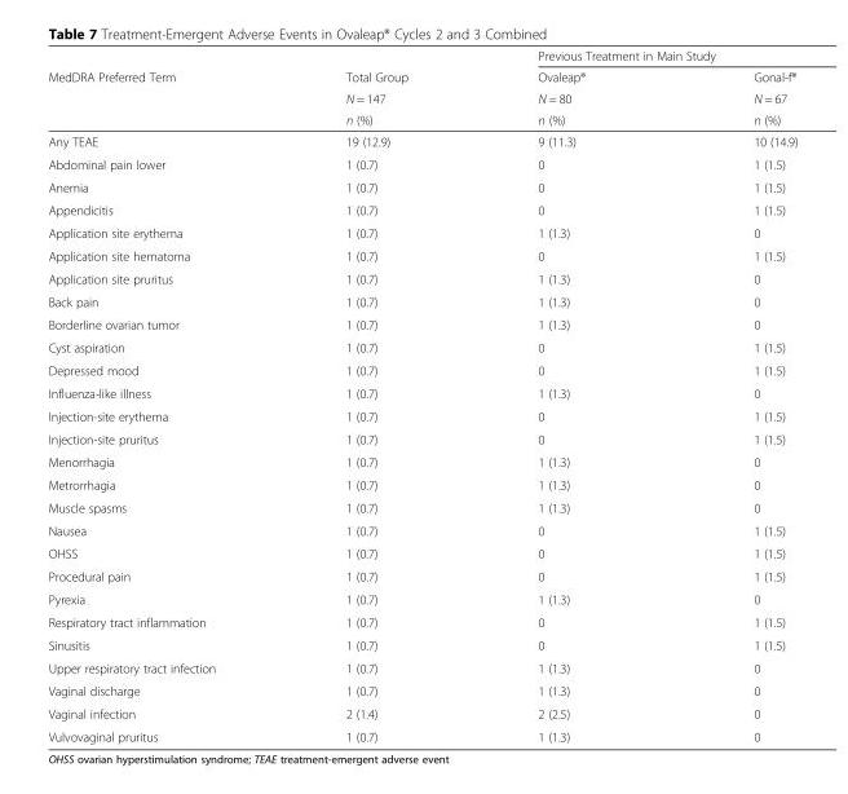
<table><thead><tr><td rowspan="4">MedDRA Preferred Term</td><td rowspan="4">Total Group N = 147 n (%)</td><td colspan="2">Previous Treatment in Main Study</td></tr><tr><td rowspan="3">Ovaleap® N = 80 n (%)</td><td rowspan="3">Gonal-f® N = 67 n (%)</td></tr><tr></tr><tr></tr></thead><tbody><tr><td>Any TEAE</td><td>19 (12.9)</td><td>9 (11.3)</td><td>10 (14.9)</td></tr><tr><td>Abdominal pain lower</td><td>1 (0.7)</td><td>0</td><td>1 (1.5)</td></tr><tr><td>Anemia</td><td>1 (0.7)</td><td>0</td><td>1 (1.5)</td></tr><tr><td>Appendicitis</td><td>1 (0.7)</td><td>0</td><td>1 (1.5)</td></tr><tr><td>Application site erythema</td><td>1 (0.7)</td><td>1 (1.3)</td><td>0</td></tr><tr><td>Application site hematoma</td><td>1 (0.7)</td><td>0</td><td>1 (1.5)</td></tr><tr><td>Application site pruritus</td><td>1 (0.7)</td><td>1 (1.3)</td><td>0</td></tr><tr><td>Back pain</td><td>1 (0.7)</td><td>1 (1.3)</td><td>0</td></tr><tr><td>Borderline ovarian tumor</td><td>1 (0.7)</td><td>1 (1.3)</td><td>0</td></tr><tr><td>Cyst aspiration</td><td>1 (0.7)</td><td>0</td><td>1 (1.5)</td></tr><tr><td>Depressed mood</td><td>1 (0.7)</td><td>0</td><td>1 (1.5)</td></tr><tr><td>Influenza-like illness</td><td>1 (0.7)</td><td>1 (1.3)</td><td>0</td></tr><tr><td>Injection-site erythema</td><td>1 (0.7)</td><td>0</td><td>1 (1.5)</td></tr><tr><td>Injection-site pruritus</td><td>1 (0.7)</td><td>0</td><td>1 (1.5)</td></tr><tr><td>Menorrhagia</td><td>1 (0.7)</td><td>1 (1.3)</td><td>0</td></tr><tr><td>Metrorrhagia</td><td>1 (0.7)</td><td>1 (1.3)</td><td>0</td></tr><tr><td>Muscle spasms</td><td>1 (0.7)</td><td>1 (1.3)</td><td>0</td></tr><tr><td>Nausea</td><td>1 (0.7)</td><td>0</td><td>1 (1.5)</td></tr><tr><td>OHSS</td><td>1 (0.7)</td><td>0</td><td>1 (1.5)</td></tr><tr><td>Procedural pain</td><td>1 (0.7)</td><td>0</td><td>1 (1.5)</td></tr><tr><td>Pyrexia</td><td>1 (0.7)</td><td>1 (1.3)</td><td>0</td></tr><tr><td>Respiratory tract inflammation</td><td>1 (0.7)</td><td>0</td><td>1 (1.5)</td></tr><tr><td>Sinusitis</td><td>1 (0.7)</td><td>0</td><td>1 (1.5)</td></tr><tr><td>Upper respiratory tract infection</td><td>1 (0.7)</td><td>1 (1.3)</td><td>0</td></tr><tr><td>Vaginal discharge</td><td>1 (0.7)</td><td>1 (1.3)</td><td>0</td></tr><tr><td>Vaginal infection</td><td>2 (1.4)</td><td>2 (2.5)</td><td>0</td></tr><tr><td>Vulvovaginal pruritus</td><td>1 (0.7)</td><td>1 (1.3)</td><td>0</td></tr></tbody></table>